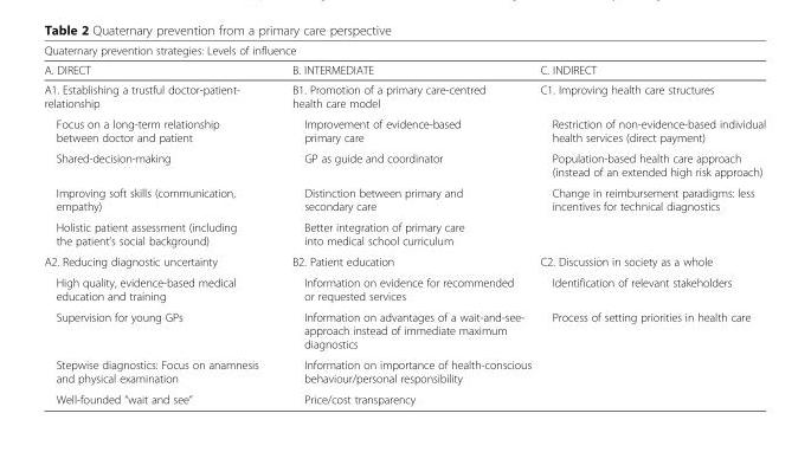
<table><thead><tr><td colspan="3">Quaternary prevention strategies: Levels of influence</td></tr><tr><td>A. DIRECT</td><td>B. INTERMEDIATE</td><td>C. INDIRECT</td></tr></thead><tbody><tr><td>A1. Establishing a trustful doctor-patient- relationship</td><td>B1. Promotion of a primary care-centred health care model</td><td>C1. Improving health care structures</td></tr><tr><td>Focus on a long-term relationship between doctor and patient</td><td>Improvement of evidence-based primary care</td><td>Restriction of non-evidence-based individual health services (direct payment)</td></tr><tr><td>Shared-decision-making</td><td>GP as guide and coordinator</td><td>Population-based health care approach (instead of an extended high risk approach)</td></tr><tr><td>Improving soft skills (communication, empathy)</td><td>Distinction between primary and secondary care</td><td>Change in reimbursement paradigms: less incentives for technical diagnostics</td></tr><tr><td>Holistic patient assessment (including the patient’s social background)</td><td>Better integration of primary care into medical school curriculum</td><td></td></tr><tr><td>A2. Reducing diagnostic uncertainty</td><td>B2. Patient education</td><td>C2. Discussion in society as a whole</td></tr><tr><td>High quality, evidence-based medical education and training</td><td>Information on evidence for recommended or requested services</td><td>Identification of relevant stakeholders</td></tr><tr><td>Supervision for young GPs</td><td>Information on advantages of a wait-and-see- approach instead of immediate maximum diagnostics</td><td>Process of setting priorities in health care</td></tr><tr><td>Stepwise diagnostics: Focus on anamnesis and physical examination</td><td>Information on importance of health-conscious behaviour/personal responsibility</td><td></td></tr><tr><td>Well-founded “wait and see”</td><td>Price/cost transparency</td><td></td></tr></tbody></table>